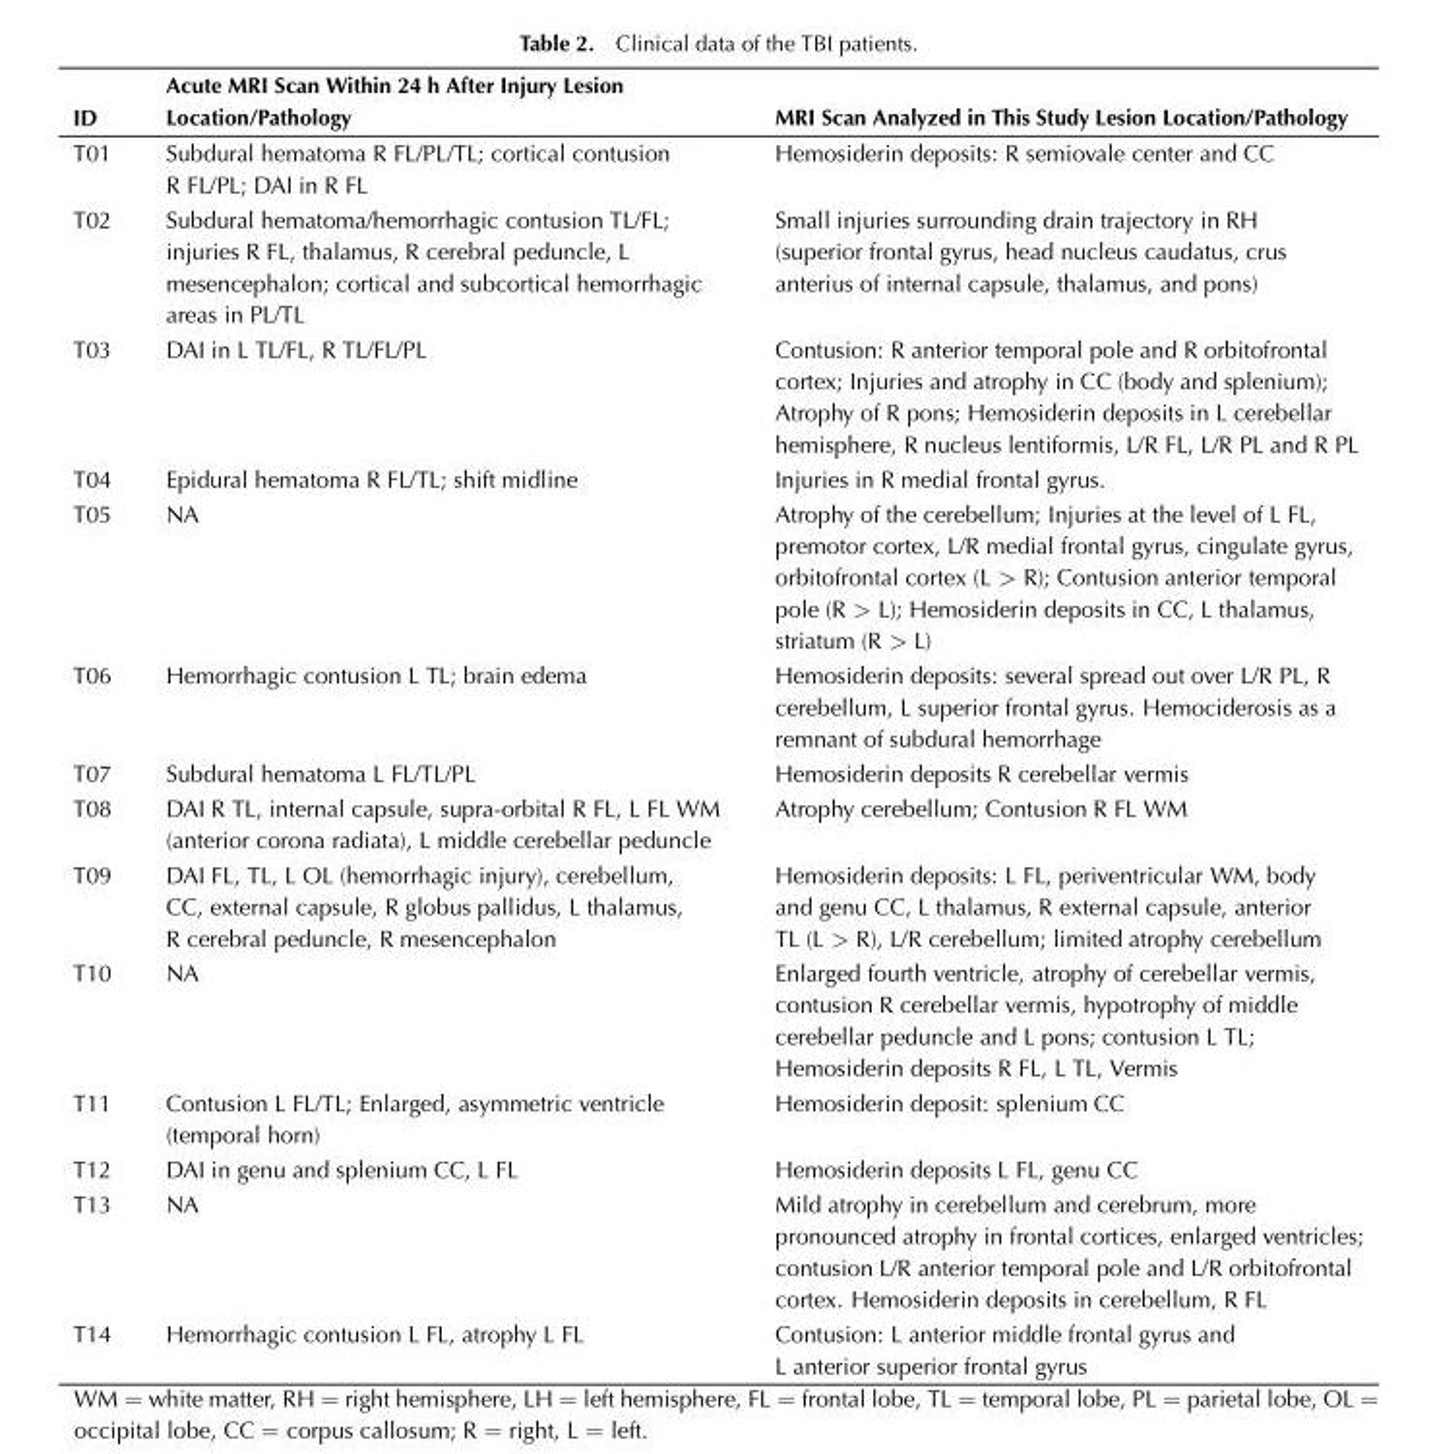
<table><thead><tr><td>ID</td><td>Acute MRI Scan Within 24 h After Injury Lesion Location/Pathology</td><td>MRI Scan Analyzed in This Study Lesion Location/Pathology</td></tr></thead><tbody><tr><td>T01</td><td>Subdural hematoma R FL/PL/TL; cortical contusion R FL/PL; DAI in R FL</td><td>Hemosiderin deposits: R semiovale center and CC</td></tr><tr><td>T02</td><td>Subdural hematoma/hemorrhagic contusion TL/FL; injuries R FL, thalamus, R cerebral peduncle, L mesencephalon; cortical and subcortical hemorrhagic areas in PL/TL</td><td>Small injuries surrounding drain trajectory in RH (superior frontal gyrus, head nucleus caudatus, crus anterius of internal capsule, thalamus, and pons)</td></tr><tr><td>T03</td><td>DAI in L TL/FL, R TL/FL/PL</td><td>Contusion: R anterior temporal pole and R orbitofrontal cortex; Injuries and atrophy in CC (body and splenium); Atrophy of R pons; Hemosiderin deposits in L cerebellar hemisphere, R nucleus lentiformis, L/R FL, L/R PL and R PL</td></tr><tr><td>T04</td><td>Epidural hematoma R FL/TL; shift midline</td><td>Injuries in R medial frontal gyrus.</td></tr><tr><td>T05</td><td>NA</td><td>Atrophy of the cerebellum; Injuries at the level of L FL, premotor cortex, L/R medial frontal gyrus, cingulate gyrus, orbitofrontal cortex (L &gt; R); Contusion anterior temporal pole (R &gt; L); Hemosiderin deposits in CC, L thalamus, striatum (R &gt; L)</td></tr><tr><td>T06</td><td>Hemorrhagic contusion L TL; brain edema</td><td>Hemosiderin deposits: several spread out over L/R PL, R cerebellum, L superior frontal gyrus. Hemociderosis as a remnant of subdural hemorrhage</td></tr><tr><td>T07</td><td>Subdural hematoma L FL/TL/PL</td><td>Hemosiderin deposits R cerebellar vermis</td></tr><tr><td>T08</td><td>DAI R TL, internal capsule, supra-orbital R FL, L FL WM (anterior corona radiata), L middle cerebellar peduncle</td><td>Atrophy cerebellum; Contusion R FL WM</td></tr><tr><td>T09</td><td>DAI FL, TL, L OL (hemorrhagic injury), cerebellum, CC, external capsule, R globus pallidus, L thalamus, R cerebral peduncle, R mesencephalon</td><td>Hemosiderin deposits: L FL, periventricular WM, body and genu CC, L thalamus, R external capsule, anterior TL (L &gt; R), L/R cerebellum; limited atrophy cerebellum</td></tr><tr><td>T10</td><td>NA</td><td>Enlarged fourth ventricle, atrophy of cerebellar vermis, contusion R cerebellar vermis, hypotrophy of middle cerebellar peduncle and L pons; contusion L TL; Hemosiderin deposits R FL, L TL, Vermis</td></tr><tr><td>T11</td><td>Contusion L FL/TL; Enlarged, asymmetric ventricle (temporal horn)</td><td>Hemosiderin deposit: splenium CC</td></tr><tr><td>T12</td><td>DAI in genu and splenium CC, L FL</td><td>Hemosiderin deposits L FL, genu CC</td></tr><tr><td>T13</td><td>NA</td><td>Mild atrophy in cerebellum and cerebrum, more pronounced atrophy in frontal cortices, enlarged ventricles; contusion L/R anterior temporal pole and L/R orbitofrontal cortex. Hemosiderin deposits in cerebellum, R FL</td></tr><tr><td>T14</td><td>Hemorrhagic contusion L FL, atrophy L FL</td><td>Contusion: L anterior middle frontal gyrus and L anterior superior frontal gyrus</td></tr></tbody></table>